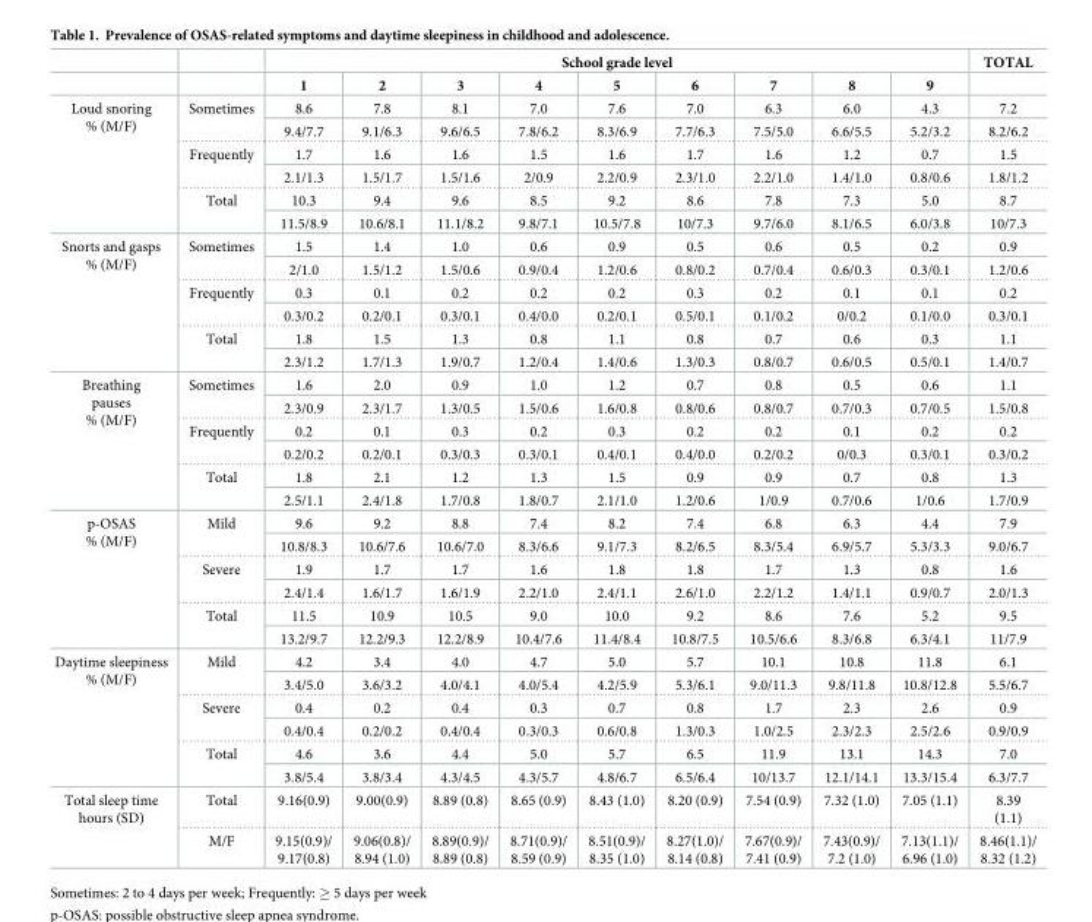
<table><thead><tr><td rowspan="2"></td><td rowspan="2"></td><td colspan="9">School grade level</td><td rowspan="2">TOTAL</td></tr><tr><td>1</td><td>2</td><td>3</td><td>4</td><td>5</td><td>6</td><td>7</td><td>8</td><td>9</td></tr></thead><tbody><tr><td rowspan="6">Loud snoring % (M/F)</td><td rowspan="2">Sometimes</td><td>8.6</td><td>7.8</td><td>8.1</td><td>7.0</td><td>7.6</td><td>7.0</td><td>6.3</td><td>6.0</td><td>4.3</td><td>7.2</td></tr><tr><td>9.4/7.7</td><td>9.1/6.3</td><td>9.6/6.5</td><td>7.8/6.2</td><td>8.3/6.9</td><td>7.7/6.3</td><td>7.5/5.0</td><td>6.6/5.5</td><td>5.2/3.2</td><td>8.2/6.2</td></tr><tr><td rowspan="2">Frequently</td><td>1.7</td><td>1.6</td><td>1.6</td><td>1.5</td><td>1.6</td><td>1.7</td><td>1.6</td><td>1.2</td><td>0.7</td><td>1.5</td></tr><tr><td>2.1/1.3</td><td>1.5/1.7</td><td>1.5/1.6</td><td>2/0.9</td><td>2.2/0.9</td><td>2.3/1.0</td><td>2.2/1.0</td><td>1.4/1.0</td><td>0.8/0.6</td><td>1.8/1.2</td></tr><tr><td rowspan="2">Total</td><td>10.3</td><td>9.4</td><td>9.6</td><td>8.5</td><td>9.2</td><td>8.6</td><td>7.8</td><td>7.3</td><td>5.0</td><td>8.7</td></tr><tr><td>11.5/8.9</td><td>10.6/8.1</td><td>11.1/8.2</td><td>9.8/7.1</td><td>10.5/7.8</td><td>10/7.3</td><td>9.7/6.0</td><td>8.1/6.5</td><td>6.0/3.8</td><td>10/7.3</td></tr><tr><td rowspan="6">Snorts and gasps % (M/F)</td><td rowspan="2">Sometimes</td><td>1.5</td><td>1.4</td><td>1.0</td><td>0.6</td><td>0.9</td><td>0.5</td><td>0.6</td><td>0.5</td><td>0.2</td><td>0.9</td></tr><tr><td>2/1.0</td><td>1.5/1.2</td><td>1.5/0.6</td><td>0.9/0.4</td><td>1.2/0.6</td><td>0.8/0.2</td><td>0.7/0.4</td><td>0.6/0.3</td><td>0.3/0.1</td><td>1.2/0.6</td></tr><tr><td rowspan="2">Frequently</td><td>0.3</td><td>0.1</td><td>0.2</td><td>0.2</td><td>0.2</td><td>0.3</td><td>0.2</td><td>0.1</td><td>0.1</td><td>0.2</td></tr><tr><td>0.3/0.2</td><td>0.2/0.1</td><td>0.3/0.1</td><td>0.4/0.0</td><td>0.2/0.1</td><td>0.5/0.1</td><td>0.1/0.2</td><td>0/0.2</td><td>0.1/0.0</td><td>0.3/0.1</td></tr><tr><td rowspan="2">Total</td><td>1.8</td><td>1.5</td><td>1.3</td><td>0.8</td><td>1.1</td><td>0.8</td><td>0.7</td><td>0.6</td><td>0.3</td><td>1.1</td></tr><tr><td>2.3/1.2</td><td>1.7/1.3</td><td>1.9/0.7</td><td>1.2/0.4</td><td>1.4/0.6</td><td>1.3/0.3</td><td>0.8/0.7</td><td>0.6/0.5</td><td>0.5/0.1</td><td>1.4/0.7</td></tr><tr><td rowspan="6">Breathing pauses % (M/F)</td><td rowspan="2">Sometimes</td><td>1.6</td><td>2.0</td><td>0.9</td><td>1.0</td><td>1.2</td><td>0.7</td><td>0.8</td><td>0.5</td><td>0.6</td><td>1.1</td></tr><tr><td>2.3/0.9</td><td>2.3/1.7</td><td>1.3/0.5</td><td>1.5/0.6</td><td>1.6/0.8</td><td>0.8/0.6</td><td>0.8/0.7</td><td>0.7/0.3</td><td>0.7/0.5</td><td>1.5/0.8</td></tr><tr><td rowspan="2">Frequently</td><td>0.2</td><td>0.1</td><td>0.3</td><td>0.2</td><td>0.3</td><td>0.2</td><td>0.2</td><td>0.1</td><td>0.2</td><td>0.2</td></tr><tr><td>0.2/0.2</td><td>0.2/0.1</td><td>0.3/0.3</td><td>0.3/0.1</td><td>0.4/0.1</td><td>0.4/0.0</td><td>0.2/0.2</td><td>0/0.3</td><td>0.3/0.1</td><td>0.3/0.2</td></tr><tr><td rowspan="2">Total</td><td>1.8</td><td>2.1</td><td>1.2</td><td>1.3</td><td>1.5</td><td>0.9</td><td>0.9</td><td>0.7</td><td>0.8</td><td>1.3</td></tr><tr><td>2.5/1.1</td><td>2.4/1.8</td><td>1.7/0.8</td><td>1.8/0.7</td><td>2.1/1.0</td><td>1.2/0.6</td><td>1/0.9</td><td>0.7/0.6</td><td>1/0.6</td><td>1.7/0.9</td></tr><tr><td rowspan="6">p-OSAS % (M/F)</td><td rowspan="2">Mild</td><td>9.6</td><td>9.2</td><td>8.8</td><td>7.4</td><td>8.2</td><td>7.4</td><td>6.8</td><td>6.3</td><td>4.4</td><td>7.9</td></tr><tr><td>10.8/8.3</td><td>10.6/7.6</td><td>10.6/7.0</td><td>8.3/6.6</td><td>9.1/7.3</td><td>8.2/6.5</td><td>8.3/5.4</td><td>6.9/5.7</td><td>5.3/3.3</td><td>9.0/6.7</td></tr><tr><td rowspan="2">Severe</td><td>1.9</td><td>1.7</td><td>1.7</td><td>1.6</td><td>1.8</td><td>1.8</td><td>1.7</td><td>1.3</td><td>0.8</td><td>1.6</td></tr><tr><td>2.4/1.4</td><td>1.6/1.7</td><td>1.6/1.9</td><td>2.2/1.0</td><td>2.4/1.1</td><td>2.6/1.0</td><td>2.2/1.2</td><td>1.4/1.1</td><td>0.9/0.7</td><td>2.0/1.3</td></tr><tr><td rowspan="2">Total</td><td>11.5</td><td>10.9</td><td>10.5</td><td>9.0</td><td>10.0</td><td>9.2</td><td>8.6</td><td>7.6</td><td>5.2</td><td>9.5</td></tr><tr><td>13.2/9.7</td><td>12.2/9.3</td><td>12.2/8.9</td><td>10.4/7.6</td><td>11.4/8.4</td><td>10.8/7.5</td><td>10.5/6.6</td><td>8.3/6.8</td><td>6.3/4.1</td><td>11/7.9</td></tr><tr><td rowspan="6">Daytime sleepiness % (M/F)</td><td rowspan="2">Mild</td><td>4.2</td><td>3.4</td><td>4.0</td><td>4.7</td><td>5.0</td><td>5.7</td><td>10.1</td><td>10.8</td><td>11.8</td><td>6.1</td></tr><tr><td>3.4/5.0</td><td>3.6/3.2</td><td>4.0/4.1</td><td>4.0/5.4</td><td>4.2/5.9</td><td>5.3/6.1</td><td>9.0/11.3</td><td>9.8/11.8</td><td>10.8/12.8</td><td>5.5/6.7</td></tr><tr><td rowspan="2">Severe</td><td>0.4</td><td>0.2</td><td>0.4</td><td>0.3</td><td>0.7</td><td>0.8</td><td>1.7</td><td>2.3</td><td>2.6</td><td>0.9</td></tr><tr><td>0.4/0.4</td><td>0.2/0.2</td><td>0.4/0.4</td><td>0.3/0.3</td><td>0.6/0.8</td><td>1.3/0.3</td><td>1.0/2.5</td><td>2.3/2.3</td><td>2.5/2.6</td><td>0.9/0.9</td></tr><tr><td rowspan="2">Total</td><td>4.6</td><td>3.6</td><td>4.4</td><td>5.0</td><td>5.7</td><td>6.5</td><td>11.9</td><td>13.1</td><td>14.3</td><td>7.0</td></tr><tr><td>3.8/5.4</td><td>3.8/3.4</td><td>4.3/4.5</td><td>4.3/5.7</td><td>4.8/6.7</td><td>6.5/6.4</td><td>10/13.7</td><td>12.1/14.1</td><td>13.3/15.4</td><td>6.3/7.7</td></tr><tr><td rowspan="2">Total sleep time hours (SD)</td><td>Total</td><td>9.16(0.9)</td><td>9.00(0.9)</td><td>8.89 (0.8)</td><td>8.65 (0.9)</td><td>8.43 (1.0)</td><td>8.20 (0.9)</td><td>7.54 (0.9)</td><td>7.32 (1.0)</td><td>7.05 (1.1)</td><td>8.39 (1.1)</td></tr><tr><td>M/F</td><td>9.15(0.9)/ 9.17(0.8)</td><td>9.06(0.8)/ 8.94 (1.0)</td><td>8.89(0.9)/ 8.89 (0.8)</td><td>8.71(0.9)/ 8.59 (0.9)</td><td>8.51(0.9)/ 8.35 (1.0)</td><td>8.27(1.0)/ 8.14 (0.8)</td><td>7.67(0.9)/ 7.41 (0.9)</td><td>7.43(0.9)/ 7.2 (1.0)</td><td>7.13(1.1)/ 6.96 (1.0)</td><td>8.46(1.1)/ 8.32 (1.2)</td></tr></tbody></table>